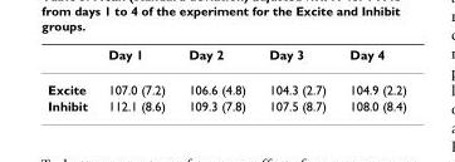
<table><thead><tr><td></td><td>Day 1</td><td>Day 2</td><td>Day 3</td><td>Day 4</td></tr></thead><tbody><tr><td>Excite</td><td>107.0 (7.2)</td><td>106.6 (4.8)</td><td>104.3 (2.7)</td><td>104.9 (2.2)</td></tr><tr><td>Inhibit</td><td>112.1 (8.6)</td><td>109.3 (7.8)</td><td>107.5 (8.7)</td><td>108.0 (8.4)</td></tr></tbody></table>